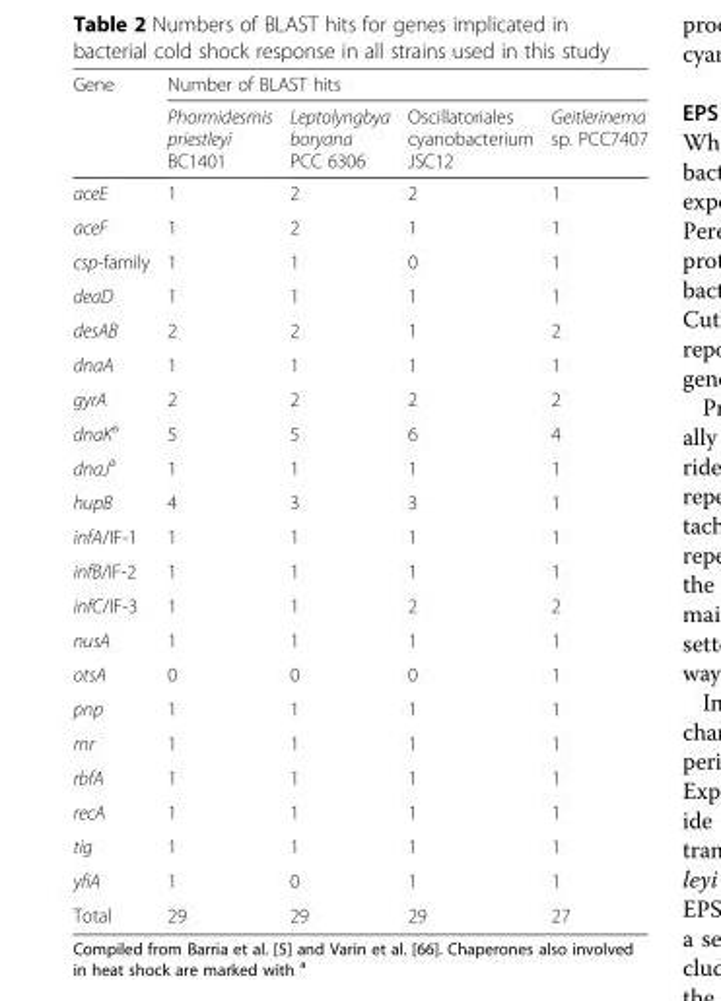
<table><thead><tr><td rowspan="2">Gene</td><td colspan="4">Number of BLAST hits</td></tr><tr><td>Phormidesmis priestleyi BC1401</td><td>Leptolyngbya boryana PCC 6306</td><td>Oscillatoriales cyanobacterium JSC12</td><td>Geitlerinema sp. PCC7407</td></tr></thead><tbody><tr><td>aceE</td><td>1</td><td>2</td><td>2</td><td>1</td></tr><tr><td>aceF</td><td>1</td><td>2</td><td>1</td><td>1</td></tr><tr><td>csp-family</td><td>1</td><td>1</td><td>0</td><td>1</td></tr><tr><td>deaD</td><td>1</td><td>1</td><td>1</td><td>1</td></tr><tr><td>desAB</td><td>2</td><td>2</td><td>1</td><td>2</td></tr><tr><td>dnaA</td><td>1</td><td>1</td><td>1</td><td>1</td></tr><tr><td>gyrA</td><td>2</td><td>2</td><td>2</td><td>2</td></tr><tr><td>dnaK<sup>a</sup></td><td>5</td><td>5</td><td>6</td><td>4</td></tr><tr><td>dnaJ<sup>a</sup></td><td>1</td><td>1</td><td>1</td><td>1</td></tr><tr><td>hupB</td><td>4</td><td>3</td><td>3</td><td>1</td></tr><tr><td>infA/IF-1</td><td>1</td><td>1</td><td>1</td><td>1</td></tr><tr><td>infB/IF-2</td><td>1</td><td>1</td><td>1</td><td>1</td></tr><tr><td>infC/IF-3</td><td>1</td><td>1</td><td>2</td><td>2</td></tr><tr><td>nusA</td><td>1</td><td>1</td><td>1</td><td>1</td></tr><tr><td>otsA</td><td>0</td><td>0</td><td>0</td><td>1</td></tr><tr><td>pnp</td><td>1</td><td>1</td><td>1</td><td>1</td></tr><tr><td>rnr</td><td>1</td><td>1</td><td>1</td><td>1</td></tr><tr><td>rbfA</td><td>1</td><td>1</td><td>1</td><td>1</td></tr><tr><td>recA</td><td>1</td><td>1</td><td>1</td><td>1</td></tr><tr><td>tig</td><td>1</td><td>1</td><td>1</td><td>1</td></tr><tr><td>yfiA</td><td>1</td><td>0</td><td>1</td><td>1</td></tr><tr><td>Total</td><td>29</td><td>29</td><td>29</td><td>27</td></tr></tbody></table>